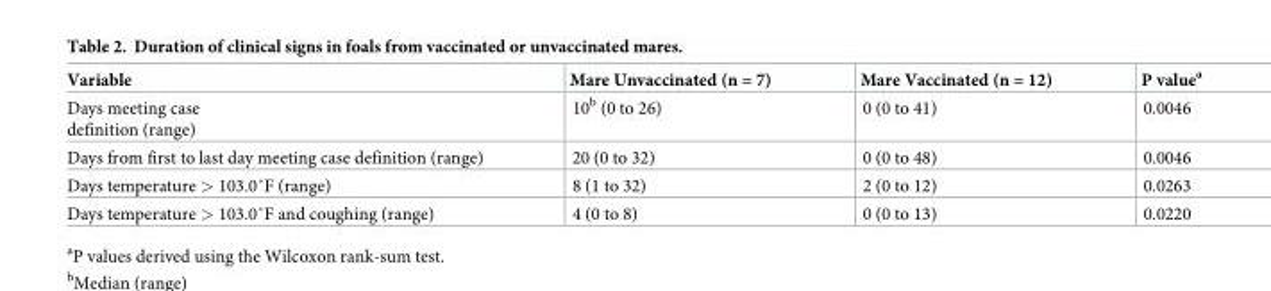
<table><thead><tr><td>Variable</td><td>Mare Unvaccinated (n = 7)</td><td>Mare Vaccinated (n = 12)</td><td>P value<sup>a</sup></td></tr></thead><tbody><tr><td>Days meeting case definition (range)</td><td>10<sup>b</sup> (0 to 26)</td><td>0 (0 to 41)</td><td>0.0046</td></tr><tr><td>Days from first to last day meeting case definition (range)</td><td>20 (0 to 32)</td><td>0 (0 to 48)</td><td>0.0046</td></tr><tr><td>Days temperature &gt; 103.0˚F (range)</td><td>8 (1 to 32)</td><td>2 (0 to 12)</td><td>0.0263</td></tr><tr><td>Days temperature &gt; 103.0˚F and coughing (range)</td><td>4 (0 to 8)</td><td>0 (0 to 13)</td><td>0.0220</td></tr></tbody></table>